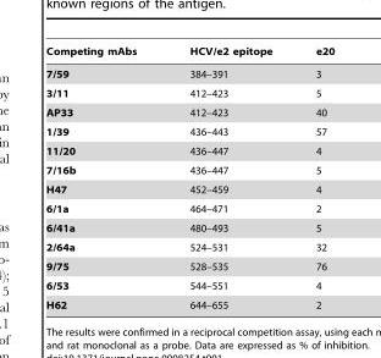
<table><thead><tr><td>Competing mAbs</td><td>HCV/e2 epitope</td><td>e20</td></tr></thead><tbody><tr><td>7/59</td><td>384–391</td><td>3</td></tr><tr><td>3/11</td><td>412–423</td><td>5</td></tr><tr><td>AP33</td><td>412–423</td><td>40</td></tr><tr><td>1/39</td><td>436–443</td><td>57</td></tr><tr><td>11/20</td><td>436–447</td><td>4</td></tr><tr><td>7/16b</td><td>436–447</td><td>5</td></tr><tr><td>H47</td><td>452–459</td><td>4</td></tr><tr><td>6/1a</td><td>464–471</td><td>2</td></tr><tr><td>6/41a</td><td>480–493</td><td>5</td></tr><tr><td>2/64a</td><td>524–531</td><td>32</td></tr><tr><td>9/75</td><td>528–535</td><td>76</td></tr><tr><td>6/53</td><td>544–551</td><td>4</td></tr><tr><td>H62</td><td>644–655</td><td>2</td></tr></tbody></table>